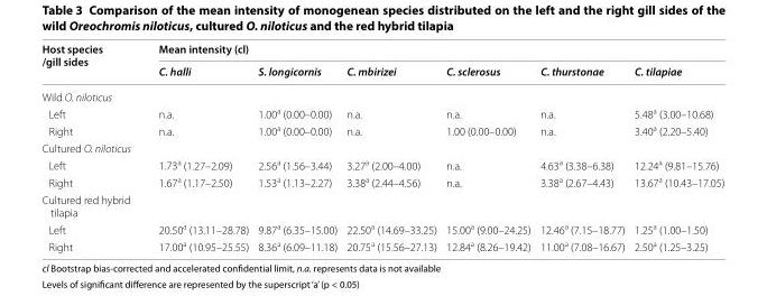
<table><thead><tr><td rowspan="2">Host species /gill sides</td><td colspan="6">Mean intensity (cl)</td></tr><tr><td>C. halli</td><td>S. longicornis</td><td>C. mbirizei</td><td>C. sclerosus</td><td>C. thurstonae</td><td>C. tilapiae</td></tr></thead><tbody><tr><td colspan="7">Wild O. niloticus</td></tr><tr><td>Left</td><td>n.a.</td><td>1.00<sup>a</sup> (0.00–0.00)</td><td>n.a.</td><td>n.a.</td><td>n.a.</td><td>5.48<sup>a</sup> (3.00–10.68)</td></tr><tr><td>Right</td><td>n.a.</td><td>1.00<sup>a</sup> (0.00–0.00)</td><td>n.a.</td><td>1.00 (0.00–0.00)</td><td>n.a.</td><td>3.40<sup>a</sup> (2.20–5.40)</td></tr><tr><td colspan="7">Cultured O. niloticus</td></tr><tr><td>Left</td><td>1.73<sup>a</sup> (1.27–2.09)</td><td>2.56<sup>a</sup> (1.56–3.44)</td><td>3.27<sup>a</sup> (2.00–4.00)</td><td>n.a.</td><td>4.63<sup>a</sup> (3.38–6.38)</td><td>12.24<sup>a</sup> (9.81–15.76)</td></tr><tr><td>Right</td><td>1.67<sup>a</sup> (1.17–2.50)</td><td>1.53<sup>a</sup> (1.13–2.27)</td><td>3.38<sup>a</sup> (2.44–4.56)</td><td>n.a.</td><td>3.38<sup>a</sup> (2.67–4.43)</td><td>13.67<sup>a</sup> (10.43–17.05)</td></tr><tr><td colspan="7">Cultured red hybrid tilapia</td></tr><tr><td>Left</td><td>20.50<sup>a</sup> (13.11–28.78)</td><td>9.87<sup>a</sup> (6.35–15.00)</td><td>22.50<sup>a</sup> (14.69–33.25)</td><td>15.00<sup>a</sup> (9.00–24.25)</td><td>12.46<sup>a</sup> (7.15–18.77)</td><td>1.25<sup>a</sup> (1.00–1.50)</td></tr><tr><td>Right</td><td>17.00<sup>a</sup> (10.95–25.55)</td><td>8.36<sup>a</sup> (6.09–11.18)</td><td>20.75<sup>a</sup> (15.56–27.13)</td><td>12.84<sup>a</sup> (8.26–19.42)</td><td>11.00<sup>a</sup> (7.08–16.67)</td><td>2.50<sup>a</sup> (1.25–3.25)</td></tr></tbody></table>